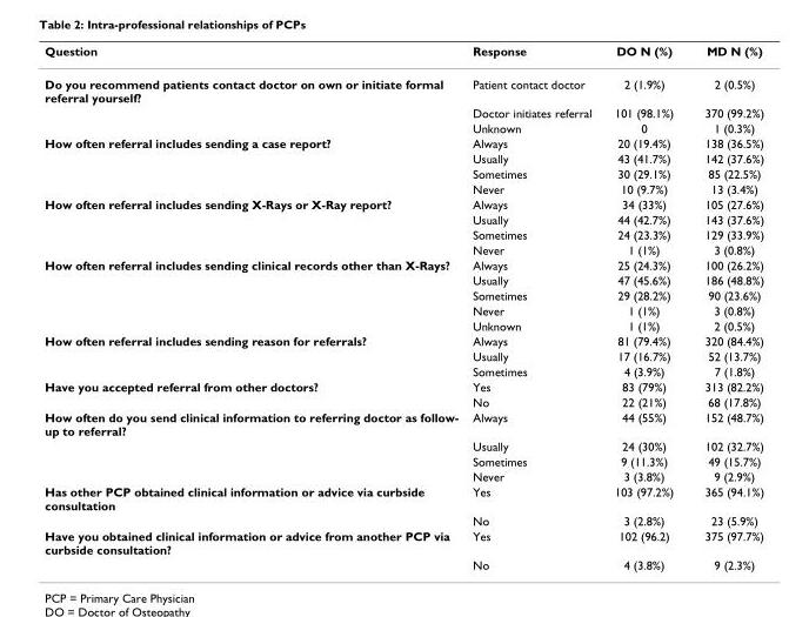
<table><thead><tr><td>Question</td><td>Response</td><td>DO N (%)</td><td>MD N (%)</td></tr></thead><tbody><tr><td rowspan="3">Do you recommend patients contact doctor on own or initiate formal referral yourself?</td><td>Patient contact doctor</td><td>2 (1.9%)</td><td>2 (0.5%)</td></tr><tr><td>Doctor initiates referral</td><td>101 (98.1%)</td><td>370 (99.2%)</td></tr><tr><td>Unknown</td><td>0</td><td>1 (0.3%)</td></tr><tr><td rowspan="4">How often referral includes sending a case report?</td><td>Always</td><td>20 (19.4%)</td><td>138 (36.5%)</td></tr><tr><td>Usually</td><td>43 (41.7%)</td><td>142 (37.6%)</td></tr><tr><td>Sometimes</td><td>30 (29.1%)</td><td>85 (22.5%)</td></tr><tr><td>Never</td><td>10 (9.7%)</td><td>13 (3.4%)</td></tr><tr><td rowspan="4">How often referral includes sending X-Rays or X-Ray report?</td><td>Always</td><td>34 (33%)</td><td>105 (27.6%)</td></tr><tr><td>Usually</td><td>44 (42.7%)</td><td>143 (37.6%)</td></tr><tr><td>Sometimes</td><td>24 (23.3%)</td><td>129 (33.9%)</td></tr><tr><td>Never</td><td>1 (1%)</td><td>3 (0.8%)</td></tr><tr><td rowspan="5">How often referral includes sending clinical records other than X-Rays?</td><td>Always</td><td>25 (24.3%)</td><td>100 (26.2%)</td></tr><tr><td>Usually</td><td>47 (45.6%)</td><td>186 (48.8%)</td></tr><tr><td>Sometimes</td><td>29 (28.2%)</td><td>90 (23.6%)</td></tr><tr><td>Never</td><td>1 (1%)</td><td>3 (0.8%)</td></tr><tr><td>Unknown</td><td>1 (1%)</td><td>2 (0.5%)</td></tr><tr><td rowspan="3">How often referral includes sending reason for referrals?</td><td>Always</td><td>81 (79.4%)</td><td>320 (84.4%)</td></tr><tr><td>Usually</td><td>17 (16.7%)</td><td>52 (13.7%)</td></tr><tr><td>Sometimes</td><td>4 (3.9%)</td><td>7 (1.8%)</td></tr><tr><td rowspan="2">Have you accepted referral from other doctors?</td><td>Yes</td><td>83 (79%)</td><td>313 (82.2%)</td></tr><tr><td>No</td><td>22 (21%)</td><td>68 (17.8%)</td></tr><tr><td rowspan="4">How often do you send clinical information to referring doctor as follow- up to referral?</td><td>Always</td><td>44 (55%)</td><td>152 (48.7%)</td></tr><tr><td>Usually</td><td>24 (30%)</td><td>102 (32.7%)</td></tr><tr><td>Sometimes</td><td>9 (11.3%)</td><td>49 (15.7%)</td></tr><tr><td>Never</td><td>3 (3.8%)</td><td>9 (2.9%)</td></tr><tr><td rowspan="2">Has other PCP obtained clinical information or advice via curbside consultation</td><td>Yes</td><td>103 (97.2%)</td><td>365 (94.1%)</td></tr><tr><td>No</td><td>3 (2.8%)</td><td>23 (5.9%)</td></tr><tr><td rowspan="2">Have you obtained clinical information or advice from another PCP via curbside consultation?</td><td>Yes</td><td>102 (96.2)</td><td>375 (97.7%)</td></tr><tr><td>No</td><td>4 (3.8%)</td><td>9 (2.3%)</td></tr></tbody></table>